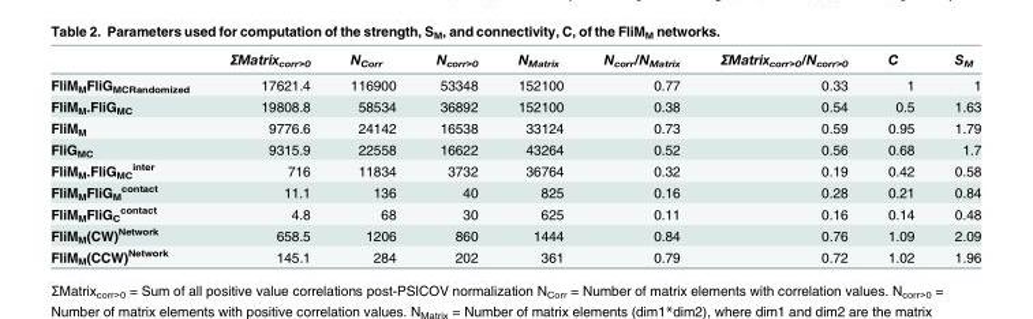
<table><thead><tr><td></td><td>ΣMatrix<sub>corr&gt;0</sub></td><td>N<sub>Corr</sub></td><td>N<sub>corr&gt;0</sub></td><td>N<sub>Matrix</sub></td><td>N<sub>corr</sub>/N<sub>Matrix</sub></td><td>ΣMatrix<sub>corr&gt;0</sub>/N<sub>corr&gt;0</sub></td><td>C</td><td>S<sub>M</sub></td></tr></thead><tbody><tr><td>FliM<sub>M</sub>FliG<sub>MCRandomized</sub></td><td>17621.4</td><td>116900</td><td>53348</td><td>152100</td><td>0.77</td><td>0.33</td><td>1</td><td>1</td></tr><tr><td>FliM<sub>M</sub>.FliG<sub>MC</sub></td><td>19808.8</td><td>58534</td><td>36892</td><td>152100</td><td>0.38</td><td>0.54</td><td>0.5</td><td>1.63</td></tr><tr><td>FliM<sub>M</sub></td><td>9776.6</td><td>24142</td><td>16538</td><td>33124</td><td>0.73</td><td>0.59</td><td>0.95</td><td>1.79</td></tr><tr><td>FliG<sub>MC</sub></td><td>9315.9</td><td>22558</td><td>16622</td><td>43264</td><td>0.52</td><td>0.56</td><td>0.68</td><td>1.7</td></tr><tr><td>FliM<sub>M</sub>.FliG<sub>MC</sub> <sup>inter</sup></td><td>716</td><td>11834</td><td>3732</td><td>36764</td><td>0.32</td><td>0.19</td><td>0.42</td><td>0.58</td></tr><tr><td>FliM<sub>M</sub>FliG<sub>M</sub> <sup>contact</sup></td><td>11.1</td><td>136</td><td>40</td><td>825</td><td>0.16</td><td>0.28</td><td>0.21</td><td>0.84</td></tr><tr><td>FliM<sub>M</sub>FliG<sub>C</sub> <sup>contact</sup></td><td>4.8</td><td>68</td><td>30</td><td>625</td><td>0.11</td><td>0.16</td><td>0.14</td><td>0.48</td></tr><tr><td>FliM<sub>M</sub>(CW)<sup>Network</sup></td><td>658.5</td><td>1206</td><td>860</td><td>1444</td><td>0.84</td><td>0.76</td><td>1.09</td><td>2.09</td></tr><tr><td>FliM<sub>M</sub>(CCW)<sup>Network</sup></td><td>145.1</td><td>284</td><td>202</td><td>361</td><td>0.79</td><td>0.72</td><td>1.02</td><td>1.96</td></tr></tbody></table>